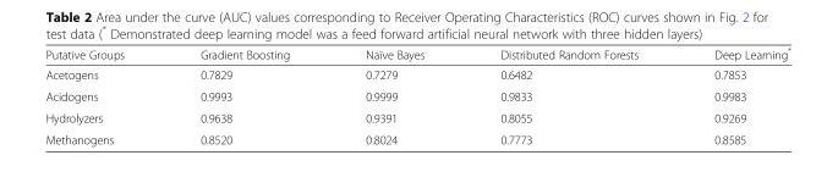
<table><thead><tr><td>Putative Groups</td><td>Gradient Boosting</td><td>Naïve Bayes</td><td>Distributed Random Forests</td><td>Deep Learning*</td></tr></thead><tbody><tr><td>Acetogens</td><td>0.7829</td><td>0.7279</td><td>0.6482</td><td>0.7853</td></tr><tr><td>Acidogens</td><td>0.9993</td><td>0.9999</td><td>0.9833</td><td>0.9983</td></tr><tr><td>Hydrolyzers</td><td>0.9638</td><td>0.9391</td><td>0.8055</td><td>0.9269</td></tr><tr><td>Methanogens</td><td>0.8520</td><td>0.8024</td><td>0.7773</td><td>0.8585</td></tr></tbody></table>